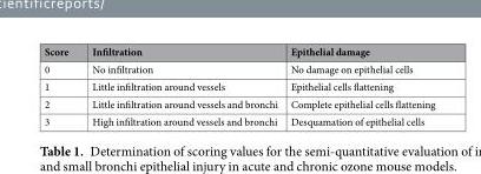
<table><thead><tr><td>Score</td><td>Infiltration</td><td>Epithelial damage</td></tr></thead><tbody><tr><td>0</td><td>No infiltration</td><td>No damage on epithelial cells</td></tr><tr><td>1</td><td>Little infiltration around vessels</td><td>Epithelial cells flattening</td></tr><tr><td>2</td><td>Little infiltration around vessels and bronchi</td><td>Complete epithelial cells flattening</td></tr><tr><td>3</td><td>High infiltration around vessels and bronchi</td><td>Desquamation of epithelial cells</td></tr></tbody></table>